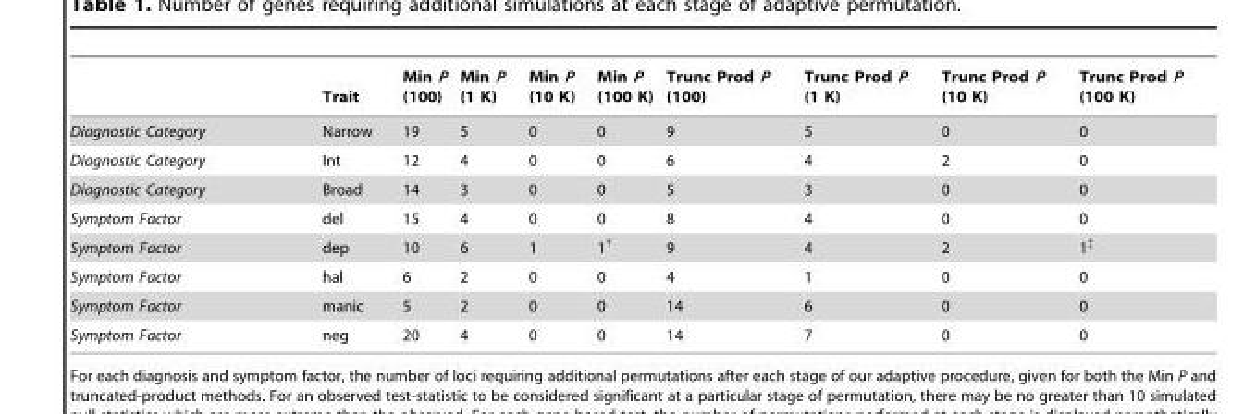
<table><thead><tr><td></td><td>Trait</td><td>Min P (100)</td><td>Min P (1 K)</td><td>Min P (10 K)</td><td>Min P (100 K)</td><td>Trunc Prod P (100)</td><td>Trunc Prod P (1 K)</td><td>Trunc Prod P (10 K)</td><td>Trunc Prod P (100 K)</td></tr></thead><tbody><tr><td>Diagnostic Category</td><td>Narrow</td><td>19</td><td>5</td><td>0</td><td>0</td><td>9</td><td>5</td><td>0</td><td>0</td></tr><tr><td>Diagnostic Category</td><td>Int</td><td>12</td><td>4</td><td>0</td><td>0</td><td>6</td><td>4</td><td>2</td><td>0</td></tr><tr><td>Diagnostic Category</td><td>Broad</td><td>14</td><td>3</td><td>0</td><td>0</td><td>5</td><td>3</td><td>0</td><td>0</td></tr><tr><td>Symptom Factor</td><td>del</td><td>15</td><td>4</td><td>0</td><td>0</td><td>8</td><td>4</td><td>0</td><td>0</td></tr><tr><td>Symptom Factor</td><td>dep</td><td>10</td><td>6</td><td>1</td><td>1†</td><td>9</td><td>4</td><td>2</td><td>1‡</td></tr><tr><td>Symptom Factor</td><td>hal</td><td>6</td><td>2</td><td>0</td><td>0</td><td>4</td><td>1</td><td>0</td><td>0</td></tr><tr><td>Symptom Factor</td><td>manic</td><td>5</td><td>2</td><td>0</td><td>0</td><td>14</td><td>6</td><td>0</td><td>0</td></tr><tr><td>Symptom Factor</td><td>neg</td><td>20</td><td>4</td><td>0</td><td>0</td><td>14</td><td>7</td><td>0</td><td>0</td></tr></tbody></table>